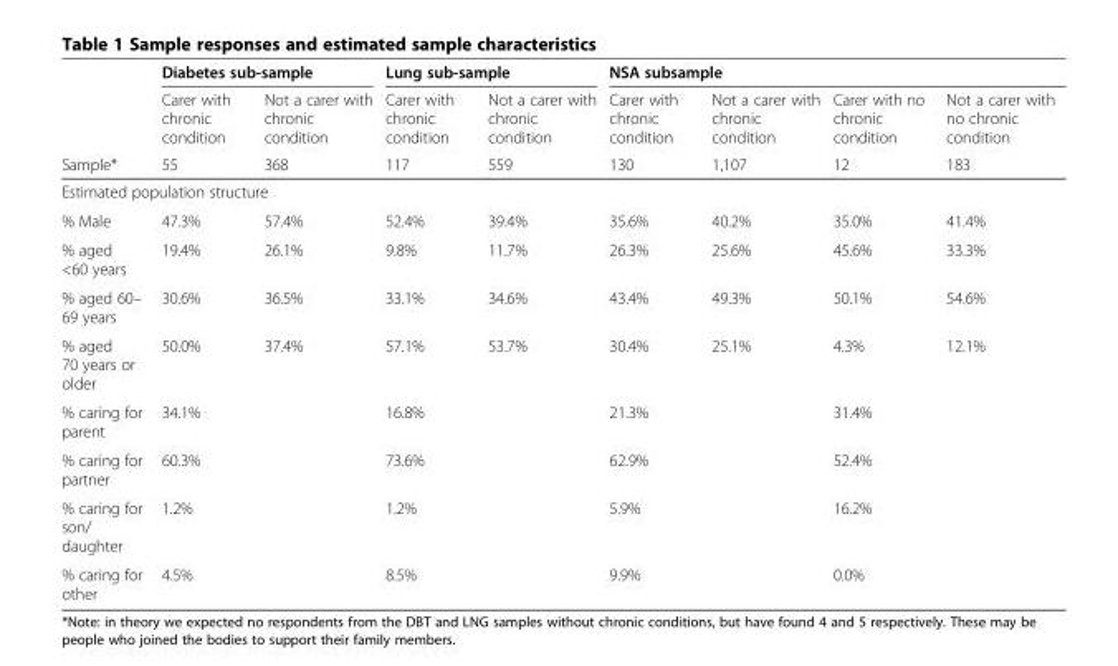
<table><thead><tr><td rowspan="3">Sample*</td><td colspan="2">Diabetes sub-sample</td><td colspan="2">Lung sub-sample</td><td colspan="4">NSA subsample</td></tr><tr><td rowspan="2">Carer with chronic condition 55</td><td rowspan="2">Not a carer with chronic condition 368</td><td rowspan="2">Carer with chronic condition 117</td><td rowspan="2">Not a carer with chronic condition 559</td><td rowspan="2">Carer with chronic condition 130</td><td rowspan="2">Not a carer with chronic condition 1,107</td><td rowspan="2">Carer with no chronic condition 12</td><td rowspan="2">Not a carer with no chronic condition 183</td></tr><tr></tr></thead><tbody><tr><td colspan="9">Estimated population structure</td></tr><tr><td>% Male</td><td>47.3%</td><td>57.4%</td><td>52.4%</td><td>39.4%</td><td>35.6%</td><td>40.2%</td><td>35.0%</td><td>41.4%</td></tr><tr><td>% aged &lt;60 years</td><td>19.4%</td><td>26.1%</td><td>9.8%</td><td>11.7%</td><td>26.3%</td><td>25.6%</td><td>45.6%</td><td>33.3%</td></tr><tr><td>% aged 60– 69 years</td><td>30.6%</td><td>36.5%</td><td>33.1%</td><td>34.6%</td><td>43.4%</td><td>49.3%</td><td>50.1%</td><td>54.6%</td></tr><tr><td>% aged 70 years or older</td><td>50.0%</td><td>37.4%</td><td>57.1%</td><td>53.7%</td><td>30.4%</td><td>25.1%</td><td>4.3%</td><td>12.1%</td></tr><tr><td>% caring for parent</td><td>34.1%</td><td></td><td>16.8%</td><td></td><td>21.3%</td><td></td><td>31.4%</td><td></td></tr><tr><td>% caring for partner</td><td>60.3%</td><td></td><td>73.6%</td><td></td><td>62.9%</td><td></td><td>52.4%</td><td></td></tr><tr><td>% caring for son/ daughter</td><td>1.2%</td><td></td><td>1.2%</td><td></td><td>5.9%</td><td></td><td>16.2%</td><td></td></tr><tr><td>% caring for other</td><td>4.5%</td><td></td><td>8.5%</td><td></td><td>9.9%</td><td></td><td>0.0%</td><td></td></tr></tbody></table>